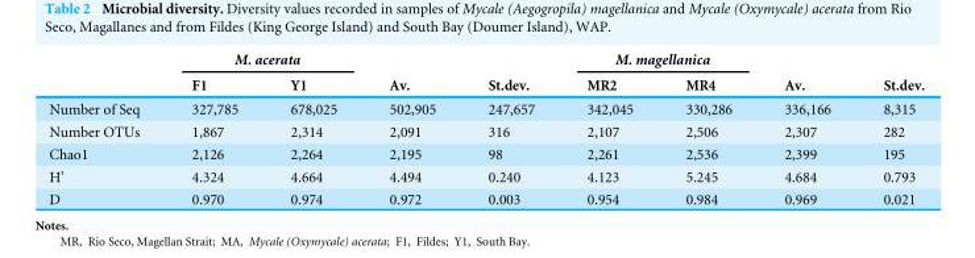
<table><thead><tr><td rowspan="2"></td><td colspan="2">M. acerata</td><td rowspan="2">Av.</td><td rowspan="2">St.dev.</td><td colspan="2">M. magellanica</td><td rowspan="2">Av.</td><td rowspan="2">St.dev.</td></tr><tr><td>F1</td><td>Y1</td><td>MR2</td><td>MR4</td></tr></thead><tbody><tr><td>Number of Seq</td><td>327,785</td><td>678,025</td><td>502,905</td><td>247,657</td><td>342,045</td><td>330,286</td><td>336,166</td><td>8,315</td></tr><tr><td>Number OTUs</td><td>1,867</td><td>2,314</td><td>2,091</td><td>316</td><td>2,107</td><td>2,506</td><td>2,307</td><td>282</td></tr><tr><td>Chao1</td><td>2,126</td><td>2,264</td><td>2,195</td><td>98</td><td>2,261</td><td>2,536</td><td>2,399</td><td>195</td></tr><tr><td>H’</td><td>4.324</td><td>4.664</td><td>4.494</td><td>0.240</td><td>4.123</td><td>5.245</td><td>4.684</td><td>0.793</td></tr><tr><td>D</td><td>0.970</td><td>0.974</td><td>0.972</td><td>0.003</td><td>0.954</td><td>0.984</td><td>0.969</td><td>0.021</td></tr></tbody></table>